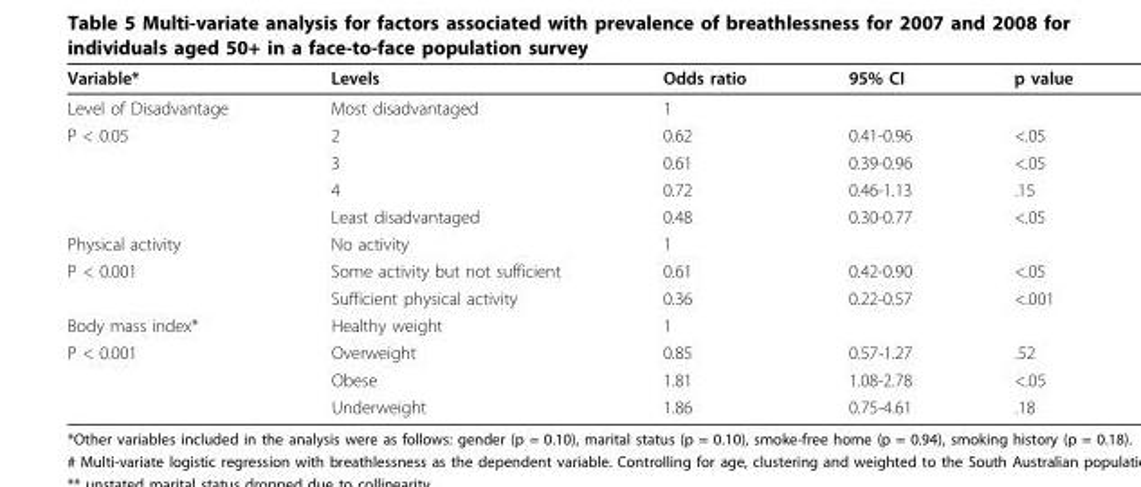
<table><thead><tr><td>Variable*</td><td>Levels</td><td>Odds ratio</td><td>95% CI</td><td>p value</td></tr></thead><tbody><tr><td>Level of Disadvantage</td><td>Most disadvantaged</td><td>1</td><td></td><td></td></tr><tr><td rowspan="4">P &lt; 0.05</td><td>2</td><td>0.62</td><td>0.41-0.96</td><td>&lt;.05</td></tr><tr><td>3</td><td>0.61</td><td>0.39-0.96</td><td>&lt;.05</td></tr><tr><td>4</td><td>0.72</td><td>0.46-1.13</td><td>.15</td></tr><tr><td>Least disadvantaged</td><td>0.48</td><td>0.30-0.77</td><td>&lt;.05</td></tr><tr><td>Physical activity</td><td>No activity</td><td>1</td><td></td><td></td></tr><tr><td rowspan="2">P &lt; 0.001</td><td>Some activity but not sufficient</td><td>0.61</td><td>0.42-0.90</td><td>&lt;.05</td></tr><tr><td>Sufficient physical activity</td><td>0.36</td><td>0.22-0.57</td><td>&lt;.001</td></tr><tr><td>Body mass index*</td><td>Healthy weight</td><td>1</td><td></td><td></td></tr><tr><td rowspan="3">P &lt; 0.001</td><td>Overweight</td><td>0.85</td><td>0.57-1.27</td><td>.52</td></tr><tr><td>Obese</td><td>1.81</td><td>1.08-2.78</td><td>&lt;.05</td></tr><tr><td>Underweight</td><td>1.86</td><td>0.75-4.61</td><td>.18</td></tr></tbody></table>